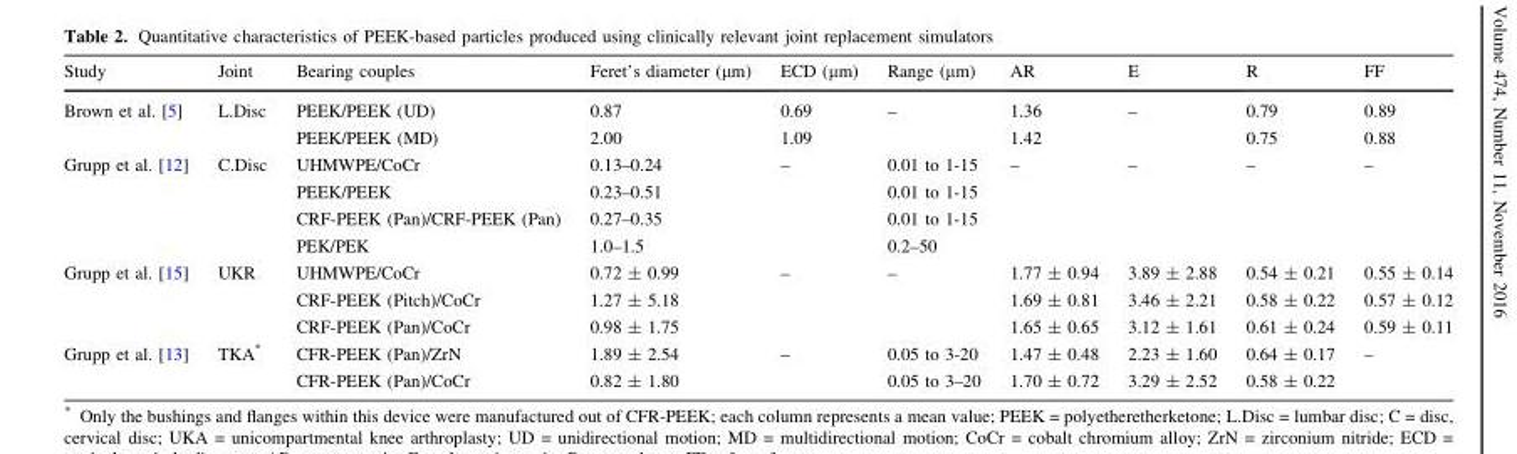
<table><thead><tr><td>Study</td><td>Joint</td><td>Bearing couples</td><td>Feret’s diameter (µm)</td><td>ECD (µm)</td><td>Range (µm)</td><td>AR</td><td>E</td><td>R</td><td>FF</td></tr></thead><tbody><tr><td>Brown et al. [5]</td><td>L.Disc</td><td>PEEK/PEEK (UD) PEEK/PEEK (MD)</td><td>0.87 2.00</td><td>0.69 1.09</td><td>–</td><td>1.36 1.42</td><td>–</td><td>0.79 0.75</td><td>0.89 0.88</td></tr><tr><td>Grupp et al. [12]</td><td>C.Disc</td><td>UHMWPE/CoCr PEEK/PEEK CRF-PEEK (Pan)/CRF-PEEK (Pan) PEK/PEK</td><td>0.13–0.24 0.23–0.51 0.27–0.35 1.0–1.5</td><td>–</td><td>0.01 to 1-15 0.01 to 1-15 0.01 to 1-15 0.2–50</td><td>–</td><td>–</td><td>–</td><td>–</td></tr><tr><td>Grupp et al. [15]</td><td>UKR</td><td>UHMWPE/CoCr CRF-PEEK (Pitch)/CoCr CRF-PEEK (Pan)/CoCr</td><td>0.72 ± 0.99 1.27 ± 5.18 0.98 ± 1.75</td><td>–</td><td>–</td><td>1.77 ± 0.94 1.69 ± 0.81 1.65 ± 0.65</td><td>3.89 ± 2.88 3.46 ± 2.21 3.12 ± 1.61</td><td>0.54 ± 0.21 0.58 ± 0.22 0.61 ± 0.24</td><td>0.55 ± 0.14 0.57 ± 0.12 0.59 ± 0.11</td></tr><tr><td>Grupp et al. [13]</td><td>TKA*</td><td>CFR-PEEK (Pan)/ZrN CFR-PEEK (Pan)/CoCr</td><td>1.89 ± 2.54 0.82 ± 1.80</td><td>–</td><td>0.05 to 3-20 0.05 to 3–20</td><td>1.47 ± 0.48 1.70 ± 0.72</td><td>2.23 ± 1.60 3.29 ± 2.52</td><td>0.64 ± 0.17 0.58 ± 0.22</td><td>–</td></tr></tbody></table>